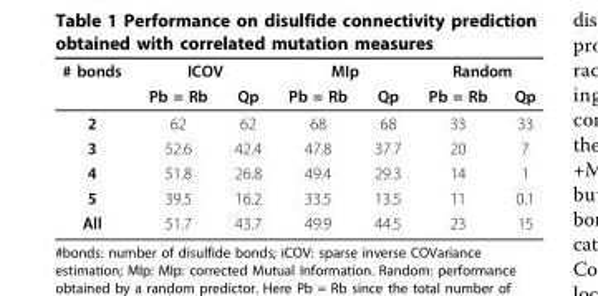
<table><thead><tr><td rowspan="2"># bonds</td><td colspan="2">ICOV</td><td colspan="2">MIp</td><td colspan="2">Random</td></tr><tr><td>Pb = Rb</td><td>Qp</td><td>Pb = Rb</td><td>Qp</td><td>Pb = Rb</td><td>Qp</td></tr></thead><tbody><tr><td>2</td><td>62</td><td>62</td><td>68</td><td>68</td><td>33</td><td>33</td></tr><tr><td>3</td><td>52.6</td><td>42.4</td><td>47.8</td><td>37.7</td><td>20</td><td>7</td></tr><tr><td>4</td><td>51.8</td><td>26.8</td><td>49.4</td><td>29.3</td><td>14</td><td>1</td></tr><tr><td>5</td><td>39.5</td><td>16.2</td><td>33.5</td><td>13.5</td><td>11</td><td>0.1</td></tr><tr><td>All</td><td>51.7</td><td>43.7</td><td>49.9</td><td>44.5</td><td>23</td><td>15</td></tr></tbody></table>